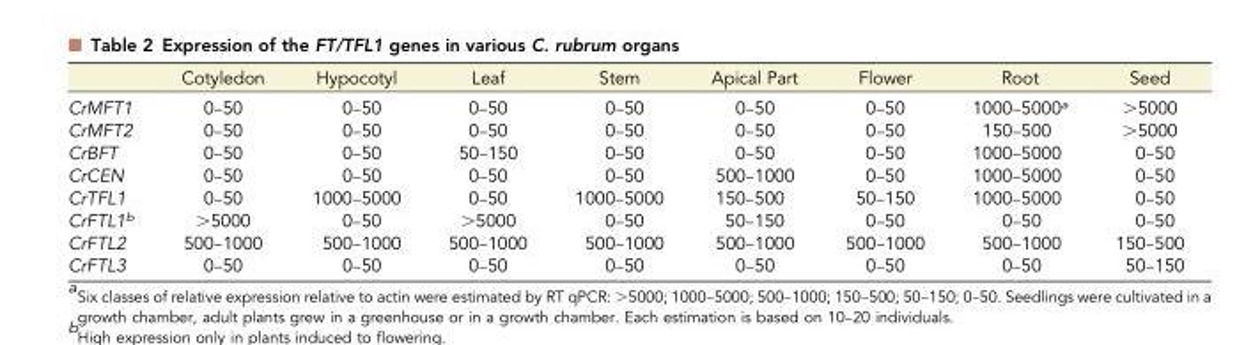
<table><thead><tr><td></td><td>Cotyledon</td><td>Hypocotyl</td><td>Leaf</td><td>Stem</td><td>Apical Part</td><td>Flower</td><td>Root</td><td>Seed</td></tr></thead><tbody><tr><td>CrMFT1</td><td>0–50</td><td>0–50</td><td>0–50</td><td>0–50</td><td>0–50</td><td>0–50</td><td>1000–5000<sup>a</sup></td><td>&gt;5000</td></tr><tr><td>CrMFT2</td><td>0–50</td><td>0–50</td><td>0–50</td><td>0–50</td><td>0–50</td><td>0–50</td><td>150–500</td><td>&gt;5000</td></tr><tr><td>CrBFT</td><td>0–50</td><td>0–50</td><td>50–150</td><td>0–50</td><td>0–50</td><td>0–50</td><td>1000–5000</td><td>0–50</td></tr><tr><td>CrCEN</td><td>0–50</td><td>0–50</td><td>0–50</td><td>0–50</td><td>500–1000</td><td>0–50</td><td>1000–5000</td><td>0–50</td></tr><tr><td>CrTFL1</td><td>0–50</td><td>1000–5000</td><td>0–50</td><td>1000–5000</td><td>150–500</td><td>50–150</td><td>1000–5000</td><td>0–50</td></tr><tr><td>CrFTL1<sup>b</sup></td><td>&gt;5000</td><td>0–50</td><td>&gt;5000</td><td>0–50</td><td>50–150</td><td>0–50</td><td>0–50</td><td>0–50</td></tr><tr><td>CrFTL2</td><td>500–1000</td><td>500–1000</td><td>500–1000</td><td>500–1000</td><td>500–1000</td><td>500–1000</td><td>500–1000</td><td>150–500</td></tr><tr><td>CrFTL3</td><td>0–50</td><td>0–50</td><td>0–50</td><td>0–50</td><td>0–50</td><td>0–50</td><td>0–50</td><td>50–150</td></tr></tbody></table>